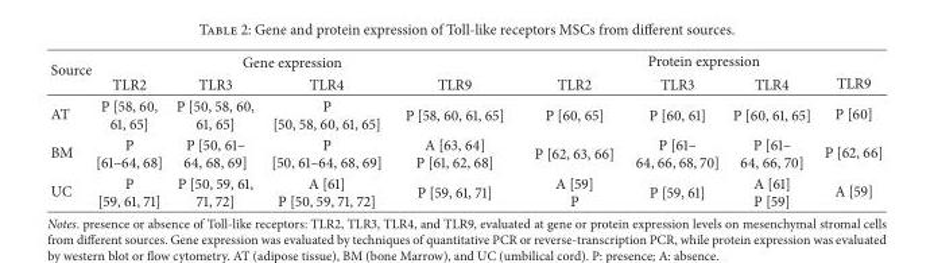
<table><thead><tr><td rowspan="2">Source</td><td colspan="4">Gene expression</td><td colspan="4">Protein expression</td></tr><tr><td>TLR2</td><td>TLR3</td><td>TLR4</td><td>TLR9</td><td>TLR2</td><td>TLR3</td><td>TLR4</td><td>TLR9</td></tr></thead><tbody><tr><td>AT</td><td>P [58, 60, 61, 65]</td><td>P [50, 58, 60, 61, 65]</td><td>P [50, 58, 60, 61, 65]</td><td>P [58, 60, 61, 65]</td><td>P [60, 65]</td><td>P [60, 61]</td><td>P [60, 61, 65]</td><td>P [60]</td></tr><tr><td>BM</td><td>P [61–64, 68]</td><td>P [50, 61– 64, 68, 69]</td><td>P [50, 61–64, 68, 69]</td><td>A [63, 64] P [61, 62, 68]</td><td>P [62, 63, 66]</td><td>P [61– 64, 66, 68, 70]</td><td>P [61– 64, 66, 70]</td><td>P [62, 66]</td></tr><tr><td>UC</td><td>P [59, 61, 71]</td><td>P [50, 59, 61, 71, 72]</td><td>A [61] P [50, 59, 71, 72]</td><td>P [59, 61, 71]</td><td>A [59] P</td><td>P [59, 61]</td><td>A [61] P [59]</td><td>A [59]</td></tr></tbody></table>